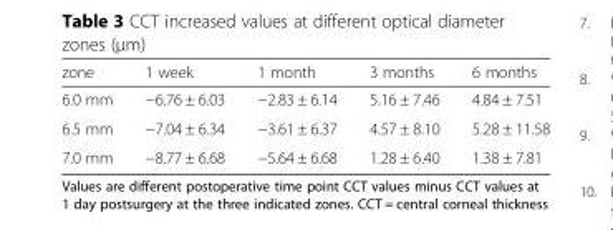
<table><thead><tr><td>zone</td><td>1 week</td><td>1 month</td><td>3 months</td><td>6 months</td></tr></thead><tbody><tr><td>6.0 mm</td><td>−6.76 ± 6.03</td><td>−2.83 ± 6.14</td><td>5.16 ± 7.46</td><td>4.84 ± 7.51</td></tr><tr><td>6.5 mm</td><td>−7.04 ± 6.34</td><td>−3.61 ± 6.37</td><td>4.57 ± 8.10</td><td>5.28 ± 11.58</td></tr><tr><td>7.0 mm</td><td>−8.77 ± 6.68</td><td>−5.64 ± 6.68</td><td>1.28 ± 6.40</td><td>1.38 ± 7.81</td></tr></tbody></table>